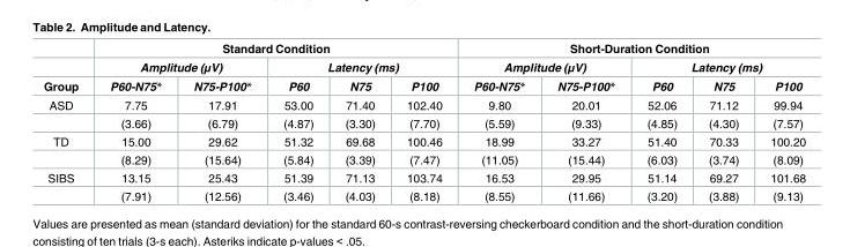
<table><thead><tr><td rowspan="3">Group</td><td colspan="5">Standard Condition</td><td colspan="5">Short-Duration Condition</td></tr><tr><td colspan="2">Amplitude (μV)</td><td colspan="3">Latency (ms)</td><td colspan="2">Amplitude (μV)</td><td colspan="3">Latency (ms)</td></tr><tr><td>P60-N75*</td><td>N75-P100*</td><td>P60</td><td>N75</td><td>P100</td><td>P60-N75*</td><td>N75-P100*</td><td>P60</td><td>N75</td><td>P100</td></tr></thead><tbody><tr><td rowspan="2">ASD</td><td>7.75</td><td>17.91</td><td>53.00</td><td>71.40</td><td>102.40</td><td>9.80</td><td>20.01</td><td>52.06</td><td>71.12</td><td>99.94</td></tr><tr><td>(3.66)</td><td>(6.79)</td><td>(4.87)</td><td>(3.30)</td><td>(7.70)</td><td>(5.59)</td><td>(9.33)</td><td>(4.85)</td><td>(4.30)</td><td>(7.57)</td></tr><tr><td rowspan="2">TD</td><td>15.00</td><td>29.62</td><td>51.32</td><td>69.68</td><td>100.46</td><td>18.99</td><td>33.27</td><td>51.40</td><td>70.33</td><td>100.20</td></tr><tr><td>(8.29)</td><td>(15.64)</td><td>(5.84)</td><td>(3.39)</td><td>(7.47)</td><td>(11.05)</td><td>(15.44)</td><td>(6.03)</td><td>(3.74)</td><td>(8.09)</td></tr><tr><td rowspan="2">SIBS</td><td>13.15</td><td>25.43</td><td>51.39</td><td>71.13</td><td>103.74</td><td>16.53</td><td>29.95</td><td>51.14</td><td>69.27</td><td>101.68</td></tr><tr><td>(7.91)</td><td>(12.56)</td><td>(3.46)</td><td>(4.03)</td><td>(8.18)</td><td>(8.55)</td><td>(11.66)</td><td>(3.20)</td><td>(3.88)</td><td>(9.13)</td></tr></tbody></table>